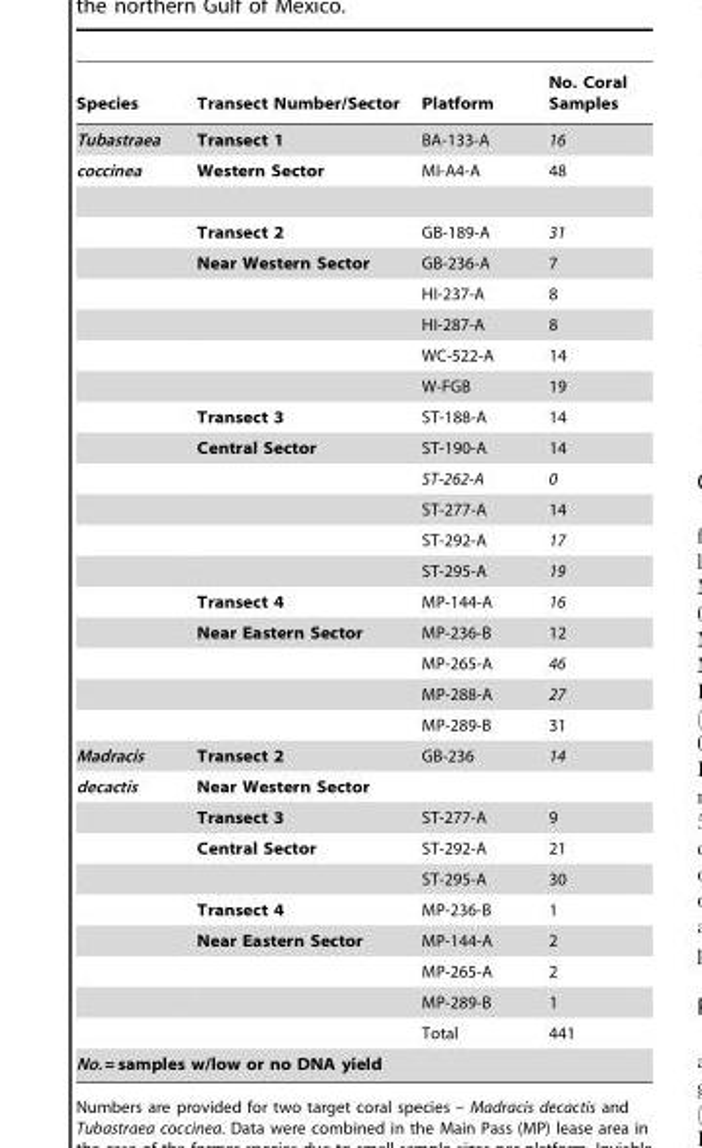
<table><thead><tr><td>Species</td><td>Transect Number/Sector</td><td>Platform</td><td>No. Coral Samples</td></tr></thead><tbody><tr><td>Tubastraea</td><td>Transect 1</td><td>BA-133-A</td><td>16</td></tr><tr><td rowspan="18">coccinea</td><td>Western Sector</td><td>MI-A4-A</td><td>48</td></tr><tr><td>Transect 2</td><td>GB-189-A</td><td>31</td></tr><tr><td>Near Western Sector</td><td>GB-236-A</td><td>7</td></tr><tr><td></td><td>HI-237-A</td><td>8</td></tr><tr><td></td><td>HI-287-A</td><td>8</td></tr><tr><td></td><td>WC-522-A</td><td>14</td></tr><tr><td></td><td>W-FGB</td><td>19</td></tr><tr><td>Transect 3</td><td>ST-188-A</td><td>14</td></tr><tr><td>Central Sector</td><td>ST-190-A</td><td>14</td></tr><tr><td></td><td>ST-262-A</td><td>0</td></tr><tr><td></td><td>ST-277-A</td><td>14</td></tr><tr><td></td><td>ST-292-A</td><td>17</td></tr><tr><td></td><td>ST-295-A</td><td>19</td></tr><tr><td>Transect 4</td><td>MP-144-A</td><td>16</td></tr><tr><td>Near Eastern Sector</td><td>MP-236-B</td><td>12</td></tr><tr><td></td><td>MP-265-A</td><td>46</td></tr><tr><td></td><td>MP-288-A</td><td>27</td></tr><tr><td></td><td>MP-289-B</td><td>31</td></tr><tr><td>Madracis</td><td>Transect 2</td><td>GB-236</td><td>14</td></tr><tr><td rowspan="9">decactis</td><td>Near Western Sector</td><td></td><td></td></tr><tr><td>Transect 3</td><td>ST-277-A</td><td>9</td></tr><tr><td>Central Sector</td><td>ST-292-A</td><td>21</td></tr><tr><td></td><td>ST-295-A</td><td>30</td></tr><tr><td>Transect 4</td><td>MP-236-B</td><td>1</td></tr><tr><td>Near Eastern Sector</td><td>MP-144-A</td><td>2</td></tr><tr><td></td><td>MP-265-A</td><td>2</td></tr><tr><td></td><td>MP-289-B</td><td>1</td></tr><tr><td></td><td>Total</td><td>441</td></tr><tr><td colspan="4">No. = samples w/low or no DNA yield</td></tr></tbody></table>